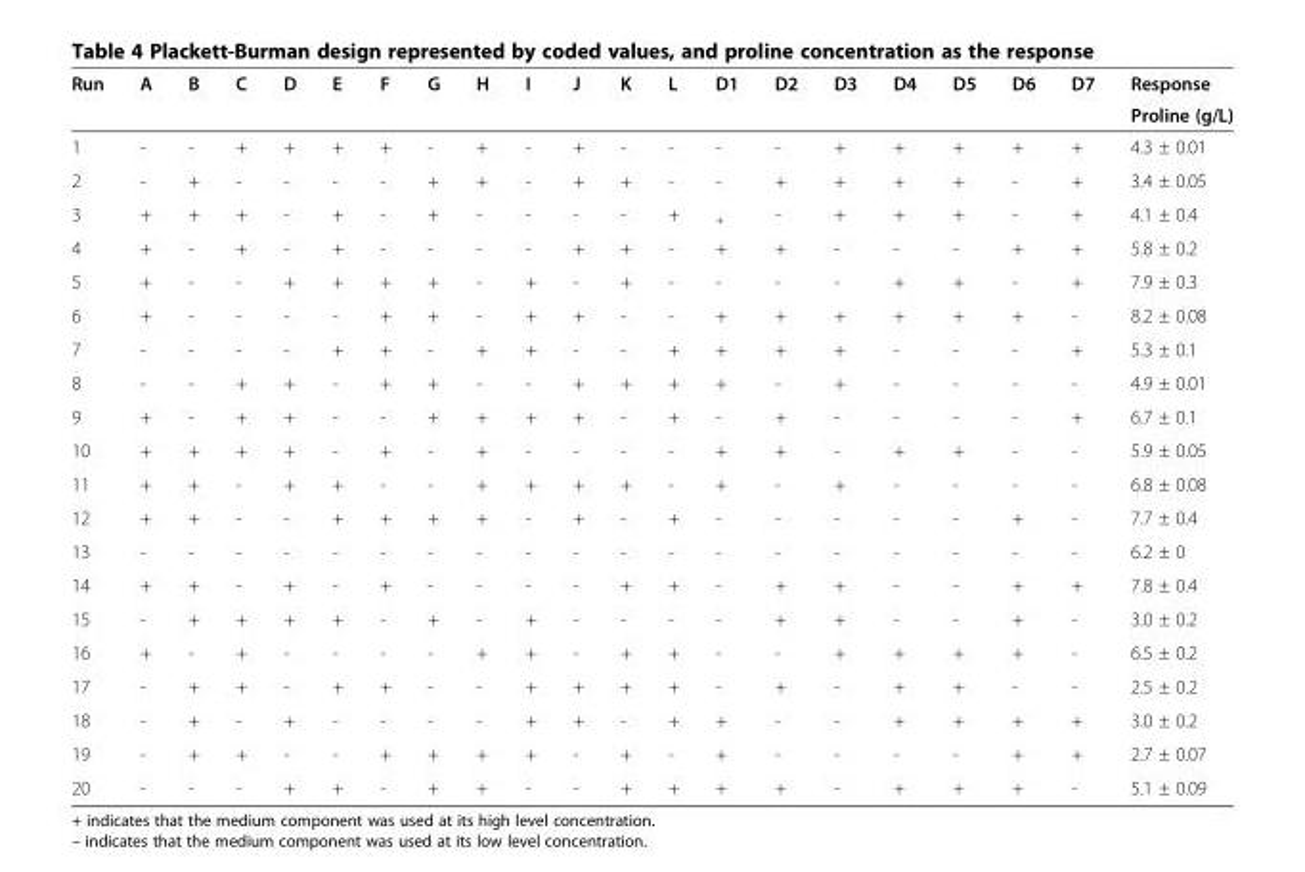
<table><thead><tr><td rowspan="2">Run</td><td rowspan="2">A</td><td rowspan="2">B</td><td rowspan="2">C</td><td rowspan="2">D</td><td rowspan="2">E</td><td rowspan="2">F</td><td rowspan="2">G</td><td rowspan="2">H</td><td rowspan="2">I</td><td rowspan="2">J</td><td rowspan="2">K</td><td rowspan="2">L</td><td rowspan="2">D1</td><td rowspan="2">D2</td><td rowspan="2">D3</td><td rowspan="2">D4</td><td rowspan="2">D5</td><td rowspan="2">D6</td><td rowspan="2">D7</td><td rowspan="2">Response Proline (g/L)</td></tr><tr></tr></thead><tbody><tr><td>1</td><td>-</td><td>-</td><td>+</td><td>+</td><td>+</td><td>+</td><td>-</td><td>+</td><td>-</td><td>+</td><td>-</td><td>-</td><td>-</td><td>-</td><td>+</td><td>+</td><td>+</td><td>+</td><td>+</td><td>4.3 ± 0.01</td></tr><tr><td>2</td><td>-</td><td>+</td><td>-</td><td>-</td><td>-</td><td>-</td><td>+</td><td>+</td><td>-</td><td>+</td><td>+</td><td>-</td><td>-</td><td>+</td><td>+</td><td>+</td><td>+</td><td>-</td><td>+</td><td>3.4 ± 0.05</td></tr><tr><td>3</td><td>+</td><td>+</td><td>+</td><td>-</td><td>+</td><td>-</td><td>+</td><td>-</td><td>-</td><td>-</td><td>-</td><td>+</td><td><sub>+</sub></td><td>-</td><td>+</td><td>+</td><td>+</td><td>-</td><td>+</td><td>4.1 ± 0.4</td></tr><tr><td>4</td><td>+</td><td>-</td><td>+</td><td>-</td><td>+</td><td>-</td><td>-</td><td>-</td><td>-</td><td>+</td><td>+</td><td>-</td><td>+</td><td>+</td><td>-</td><td>-</td><td>-</td><td>+</td><td>+</td><td>5.8 ± 0.2</td></tr><tr><td>5</td><td>+</td><td>-</td><td>-</td><td>+</td><td>+</td><td>+</td><td>+</td><td>-</td><td>+</td><td>-</td><td>+</td><td>-</td><td>-</td><td>-</td><td>-</td><td>+</td><td>+</td><td>-</td><td>+</td><td>7.9 ± 0.3</td></tr><tr><td>6</td><td>+</td><td>-</td><td>-</td><td>-</td><td>-</td><td>+</td><td>+</td><td>-</td><td>+</td><td>+</td><td>-</td><td>-</td><td>+</td><td>+</td><td>+</td><td>+</td><td>+</td><td>+</td><td>-</td><td>8.2 ± 0.08</td></tr><tr><td>7</td><td>-</td><td>-</td><td>-</td><td>-</td><td>+</td><td>+</td><td>-</td><td>+</td><td>+</td><td>-</td><td>-</td><td>+</td><td>+</td><td>+</td><td>+</td><td>-</td><td>-</td><td>-</td><td>+</td><td>5.3 ± 0.1</td></tr><tr><td>8</td><td>-</td><td>-</td><td>+</td><td>+</td><td>-</td><td>+</td><td>+</td><td>-</td><td>-</td><td>+</td><td>+</td><td>+</td><td>+</td><td>-</td><td>+</td><td>-</td><td>-</td><td>-</td><td>-</td><td>4.9 ± 0.01</td></tr><tr><td>9</td><td>+</td><td>-</td><td>+</td><td>+</td><td>-</td><td>-</td><td>+</td><td>+</td><td>+</td><td>+</td><td>-</td><td>+</td><td>-</td><td>+</td><td>-</td><td>-</td><td>-</td><td>-</td><td>+</td><td>6.7 ± 0.1</td></tr><tr><td>10</td><td>+</td><td>+</td><td>+</td><td>+</td><td>-</td><td>+</td><td>-</td><td>+</td><td>-</td><td>-</td><td>-</td><td>-</td><td>+</td><td>+</td><td>-</td><td>+</td><td>+</td><td>-</td><td>-</td><td>5.9 ± 0.05</td></tr><tr><td>11</td><td>+</td><td>+</td><td>-</td><td>+</td><td>+</td><td>-</td><td>-</td><td>+</td><td>+</td><td>+</td><td>+</td><td>-</td><td>+</td><td>-</td><td>+</td><td>-</td><td>-</td><td>-</td><td>-</td><td>6.8 ± 0.08</td></tr><tr><td>12</td><td>+</td><td>+</td><td>-</td><td>-</td><td>+</td><td>+</td><td>+</td><td>+</td><td>-</td><td>+</td><td>-</td><td>+</td><td>-</td><td>-</td><td>-</td><td>-</td><td>-</td><td>+</td><td>-</td><td>7.7 ± 0.4</td></tr><tr><td>13</td><td>-</td><td>-</td><td>-</td><td>-</td><td>-</td><td>-</td><td>-</td><td>-</td><td>-</td><td>-</td><td>-</td><td>-</td><td>-</td><td>-</td><td>-</td><td>-</td><td>-</td><td>-</td><td>-</td><td>6.2 ± 0</td></tr><tr><td>14</td><td>+</td><td>+</td><td>-</td><td>+</td><td>-</td><td>+</td><td>-</td><td>-</td><td>-</td><td>-</td><td>+</td><td>+</td><td>-</td><td>+</td><td>+</td><td>-</td><td>-</td><td>+</td><td>+</td><td>7.8 ± 0.4</td></tr><tr><td>15</td><td>-</td><td>+</td><td>+</td><td>+</td><td>+</td><td>-</td><td>+</td><td>-</td><td>+</td><td>-</td><td>-</td><td>-</td><td>-</td><td>+</td><td>+</td><td>-</td><td>-</td><td>+</td><td>-</td><td>3.0 ± 0.2</td></tr><tr><td>16</td><td>+</td><td>-</td><td>+</td><td>-</td><td>-</td><td>-</td><td>-</td><td>+</td><td>+</td><td>-</td><td>+</td><td>+</td><td>-</td><td>-</td><td>+</td><td>+</td><td>+</td><td>+</td><td>-</td><td>6.5 ± 0.2</td></tr><tr><td>17</td><td>-</td><td>+</td><td>+</td><td>-</td><td>+</td><td>+</td><td>-</td><td>-</td><td>+</td><td>+</td><td>+</td><td>+</td><td>-</td><td>+</td><td>-</td><td>+</td><td>+</td><td>-</td><td>-</td><td>2.5 ± 0.2</td></tr><tr><td>18</td><td>-</td><td>+</td><td>-</td><td>+</td><td>-</td><td>-</td><td>-</td><td>-</td><td>+</td><td>+</td><td>-</td><td>+</td><td>+</td><td>-</td><td>-</td><td>+</td><td>+</td><td>+</td><td>+</td><td>3.0 ± 0.2</td></tr><tr><td>19</td><td>-</td><td>+</td><td>+</td><td>-</td><td>-</td><td>+</td><td>+</td><td>+</td><td>+</td><td>-</td><td>+</td><td>-</td><td>+</td><td>-</td><td>-</td><td>-</td><td>-</td><td>+</td><td>+</td><td>2.7 ± 0.07</td></tr><tr><td>20</td><td>-</td><td>-</td><td>-</td><td>+</td><td>+</td><td>-</td><td>+</td><td>+</td><td>-</td><td>-</td><td>+</td><td>+</td><td>+</td><td>+</td><td>-</td><td>+</td><td>+</td><td>+</td><td>-</td><td>5.1 ± 0.09</td></tr></tbody></table>